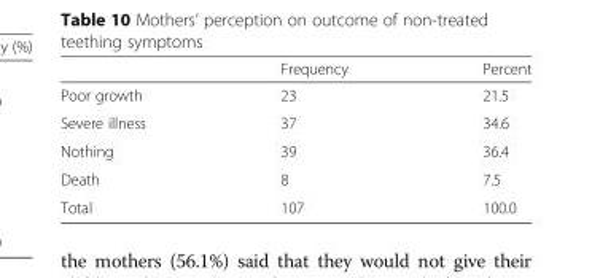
<table><thead><tr><td></td><td>Frequency</td><td>Percent</td></tr></thead><tbody><tr><td>Poor growth</td><td>23</td><td>21.5</td></tr><tr><td>Severe illness</td><td>37</td><td>34.6</td></tr><tr><td>Nothing</td><td>39</td><td>36.4</td></tr><tr><td>Death</td><td>8</td><td>7.5</td></tr><tr><td>Total</td><td>107</td><td>100.0</td></tr></tbody></table>